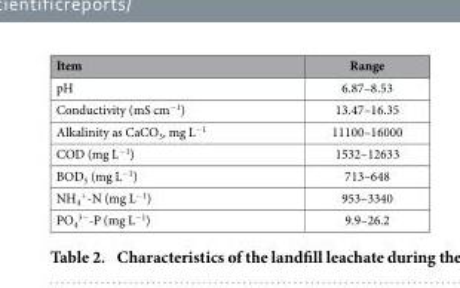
<table><thead><tr><td>Item</td><td>Range</td></tr></thead><tbody><tr><td>pH</td><td>6.87–8.53</td></tr><tr><td>Conductivity (mS cm<sup>−1</sup>)</td><td>13.47–16.35</td></tr><tr><td>Alkalinity as CaCO<sub>3</sub>, mg L<sup>−1</sup></td><td>11100–16000</td></tr><tr><td>COD (mg L<sup>−1</sup>)</td><td>1532–12633</td></tr><tr><td>BOD<sub>5</sub> (mg L<sup>−1</sup>)</td><td>713–648</td></tr><tr><td>NH<sub>4</sub> <sup>+</sup>-N (mg L<sup>−1</sup>)</td><td>953–3340</td></tr><tr><td>PO<sub>4</sub> <sup>3−</sup>-P (mg L<sup>−1</sup>)</td><td>9.9–26.2</td></tr></tbody></table>